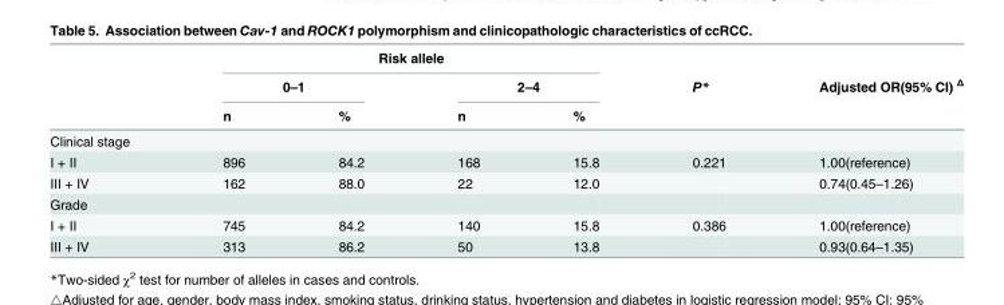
<table><thead><tr><td rowspan="3"></td><td colspan="4">Risk allele</td><td rowspan="3">P*</td><td rowspan="3">Adjusted OR(95% CI)</td></tr><tr><td colspan="2">0–1</td><td colspan="2">2–4</td></tr><tr><td>n</td><td>%</td><td>n</td><td>%</td></tr></thead><tbody><tr><td colspan="7">Clinical stage</td></tr><tr><td>I + II</td><td>896</td><td>84.2</td><td>168</td><td>15.8</td><td>0.221</td><td>1.00(reference)</td></tr><tr><td>III + IV</td><td>162</td><td>88.0</td><td>22</td><td>12.0</td><td></td><td>0.74(0.45–1.26)</td></tr><tr><td colspan="7">Grade</td></tr><tr><td>I + II</td><td>745</td><td>84.2</td><td>140</td><td>15.8</td><td>0.386</td><td>1.00(reference)</td></tr><tr><td>III + IV</td><td>313</td><td>86.2</td><td>50</td><td>13.8</td><td></td><td>0.93(0.64–1.35)</td></tr></tbody></table>